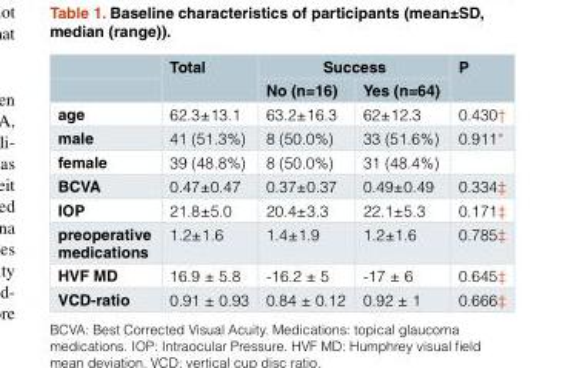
<table><thead><tr><td rowspan="2"></td><td rowspan="2">Total</td><td colspan="2">Success</td><td rowspan="2">P</td></tr><tr><td>No (n=16)</td><td>Yes (n=64)</td></tr></thead><tbody><tr><td>age</td><td>62.3±13.1</td><td>63.2±16.3</td><td>62±12.3</td><td>0.430†</td></tr><tr><td>male</td><td>41 (51.3%)</td><td>8 (50.0%)</td><td>33 (51.6%)</td><td>0.911*</td></tr><tr><td>female</td><td>39 (48.8%)</td><td>8 (50.0%)</td><td>31 (48.4%)</td><td></td></tr><tr><td>BCVA</td><td>0.47±0.47</td><td>0.37±0.37</td><td>0.49±0.49</td><td>0.334‡</td></tr><tr><td>IOP</td><td>21.8±5.0</td><td>20.4±3.3</td><td>22.1±5.3</td><td>0.171‡</td></tr><tr><td>preoperative medications</td><td>1.2±1.6</td><td>1.4±1.9</td><td>1.2±1.6</td><td>0.785‡</td></tr><tr><td>HVF MD</td><td>16.9 ± 5.8</td><td>-16.2 ± 5</td><td>-17 ± 6</td><td>0.645‡</td></tr><tr><td>VCD-ratio</td><td>0.91 ± 0.93</td><td>0.84 ± 0.12</td><td>0.92 ± 1</td><td>0.666‡</td></tr></tbody></table>